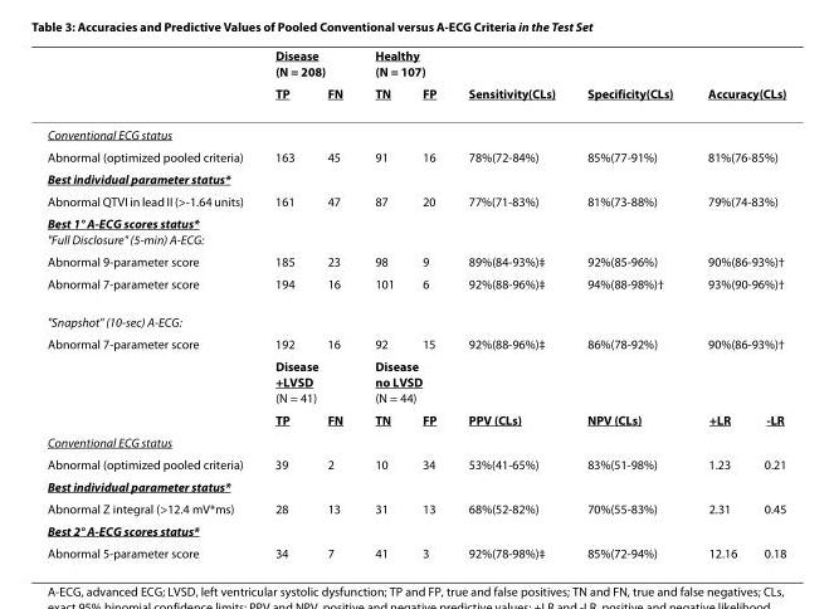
<table><thead><tr><td rowspan="2"></td><td colspan="2">Disease (N = 208)</td><td colspan="2">Healthy (N = 107)</td><td rowspan="2">Sensitivity(CLs)</td><td rowspan="2">Specificity(CLs)</td><td></td><td></td></tr><tr><td>TP</td><td>FN</td><td>TN</td><td>FP</td><td colspan="2">Accuracy(CLs)</td></tr></thead><tbody><tr><td colspan="9">Conventional ECG status</td></tr><tr><td>Abnormal (optimized pooled criteria)</td><td>163</td><td>45</td><td>91</td><td>16</td><td>78%(72-84%)</td><td>85%(77-91%)</td><td colspan="2">81%(76-85%)</td></tr><tr><td colspan="9">Best individual parameter status*</td></tr><tr><td>Abnormal QTVI in lead II (&gt;-1.64 units)</td><td>161</td><td>47</td><td>87</td><td>20</td><td>77%(71-83%)</td><td>81%(73-88%)</td><td colspan="2">79%(74-83%)</td></tr><tr><td colspan="9">Best 1° A-ECG scores status* &quot;Full Disclosure&quot; (5-min) A-ECG:</td></tr><tr><td>Abnormal 9-parameter score</td><td>185</td><td>23</td><td>98</td><td>9</td><td>89%(84-93%)‡</td><td>92%(85-96%)</td><td colspan="2">90%(86-93%)†</td></tr><tr><td>Abnormal 7-parameter score</td><td>194</td><td>16</td><td>101</td><td>6</td><td>92%(88-96%)‡</td><td>94%(88-98%)†</td><td colspan="2">93%(90-96%)†</td></tr><tr><td colspan="9">&quot;Snapshot&quot; (10-sec) A-ECG:</td></tr><tr><td rowspan="3">Abnormal 7-parameter score</td><td>192</td><td>16</td><td>92</td><td>15</td><td>92%(88-96%)‡</td><td>86%(78-92%)</td><td colspan="2">90%(86-93%)†</td></tr><tr><td colspan="2">Disease +LVSD (N = 41)</td><td colspan="2">Disease no LVSD (N = 44)</td><td></td><td></td><td></td><td></td></tr><tr><td>TP</td><td>FN</td><td>TN</td><td>FP</td><td>PPV (CLs)</td><td>NPV (CLs)</td><td>+LR</td><td>-LR</td></tr><tr><td colspan="9">Conventional ECG status</td></tr><tr><td>Abnormal (optimized pooled criteria)</td><td>39</td><td>2</td><td>10</td><td>34</td><td>53%(41-65%)</td><td>83%(51-98%)</td><td>1.23</td><td>0.21</td></tr><tr><td colspan="9">Best individual parameter status*</td></tr><tr><td>Abnormal Z integral (&gt;12.4 mV*ms)</td><td>28</td><td>13</td><td>31</td><td>13</td><td>68%(52-82%)</td><td>70%(55-83%)</td><td>2.31</td><td>0.45</td></tr><tr><td colspan="9">Best 2° A-ECG scores status*</td></tr><tr><td>Abnormal 5-parameter score</td><td>34</td><td>7</td><td>41</td><td>3</td><td>92%(78-98%)‡</td><td>85%(72-94%)</td><td>12.16</td><td>0.18</td></tr></tbody></table>